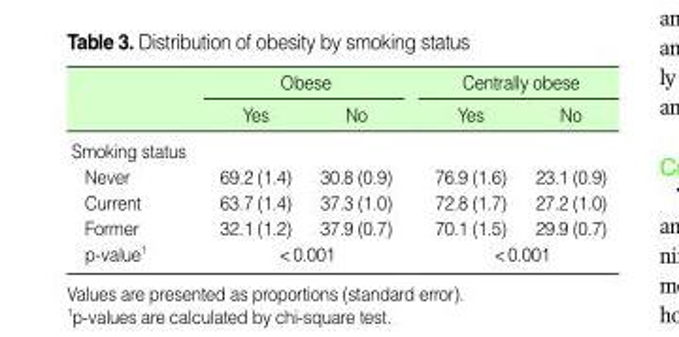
<table><thead><tr><td rowspan="2"></td><td colspan="2">Obese</td><td colspan="2">Centrally obese</td></tr><tr><td>Yes</td><td>No</td><td>Yes</td><td>No</td></tr></thead><tbody><tr><td colspan="5">Smoking status</td></tr><tr><td>Never</td><td>69.2 (1.4)</td><td>30.8 (0.9)</td><td>76.9 (1.6)</td><td>23.1 (0.9)</td></tr><tr><td>Current</td><td>63.7 (1.4)</td><td>37.3 (1.0)</td><td>72.8 (1.7)</td><td>27.2 (1.0)</td></tr><tr><td>Former</td><td>32.1 (1.2)</td><td>37.9 (0.7)</td><td>70.1 (1.5)</td><td>29.9 (0.7)</td></tr><tr><td>p-value<sup>1</sup></td><td colspan="2">&lt;0.001</td><td colspan="2">&lt;0.001</td></tr></tbody></table>